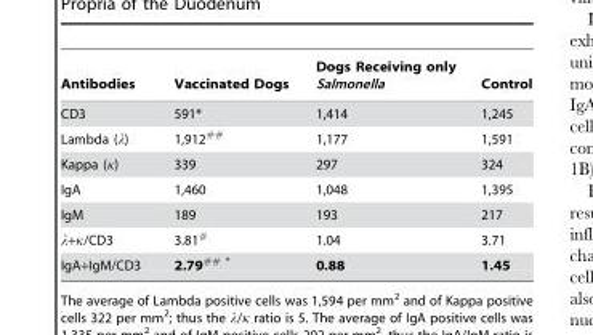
<table><thead><tr><td>Antibodies</td><td>Vaccinated Dogs</td><td>Dogs Receiving only Salmonella</td><td>Control</td></tr></thead><tbody><tr><td>CD3</td><td>591*</td><td>1,414</td><td>1,245</td></tr><tr><td>Lambda (λ)</td><td>1,912##</td><td>1,177</td><td>1,591</td></tr><tr><td>Kappa (κ)</td><td>339</td><td>297</td><td>324</td></tr><tr><td>IgA</td><td>1,460</td><td>1,048</td><td>1,395</td></tr><tr><td>IgM</td><td>189</td><td>193</td><td>217</td></tr><tr><td>λ+κ/CD3</td><td>3.81#</td><td>1.04</td><td>3.71</td></tr><tr><td>IgA+IgM/CD3</td><td>2.79## *</td><td>0.88</td><td>1.45</td></tr></tbody></table>